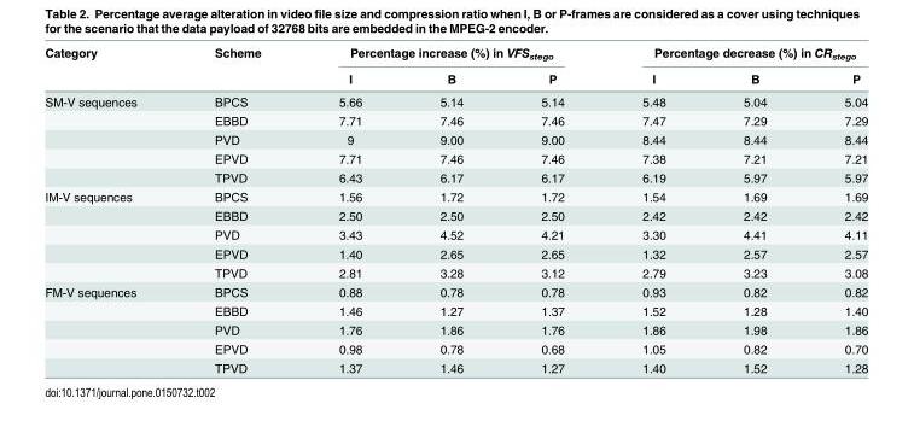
<table><thead><tr><td rowspan="2">Category</td><td rowspan="2">Scheme</td><td colspan="3">Percentage increase (%) in VFS<sub>stego</sub></td><td colspan="3">Percentage decrease (%) in CR<sub>stego</sub></td></tr><tr><td>I</td><td>B</td><td>P</td><td>I</td><td>B</td><td>P</td></tr></thead><tbody><tr><td rowspan="5">SM-V sequences</td><td>BPCS</td><td>5.66</td><td>5.14</td><td>5.14</td><td>5.48</td><td>5.04</td><td>5.04</td></tr><tr><td>EBBD</td><td>7.71</td><td>7.46</td><td>7.46</td><td>7.47</td><td>7.29</td><td>7.29</td></tr><tr><td>PVD</td><td>9</td><td>9.00</td><td>9.00</td><td>8.44</td><td>8.44</td><td>8.44</td></tr><tr><td>EPVD</td><td>7.71</td><td>7.46</td><td>7.46</td><td>7.38</td><td>7.21</td><td>7.21</td></tr><tr><td>TPVD</td><td>6.43</td><td>6.17</td><td>6.17</td><td>6.19</td><td>5.97</td><td>5.97</td></tr><tr><td rowspan="5">IM-V sequences</td><td>BPCS</td><td>1.56</td><td>1.72</td><td>1.72</td><td>1.54</td><td>1.69</td><td>1.69</td></tr><tr><td>EBBD</td><td>2.50</td><td>2.50</td><td>2.50</td><td>2.42</td><td>2.42</td><td>2.42</td></tr><tr><td>PVD</td><td>3.43</td><td>4.52</td><td>4.21</td><td>3.30</td><td>4.41</td><td>4.11</td></tr><tr><td>EPVD</td><td>1.40</td><td>2.65</td><td>2.65</td><td>1.32</td><td>2.57</td><td>2.57</td></tr><tr><td>TPVD</td><td>2.81</td><td>3.28</td><td>3.12</td><td>2.79</td><td>3.23</td><td>3.08</td></tr><tr><td rowspan="5">FM-V sequences</td><td>BPCS</td><td>0.88</td><td>0.78</td><td>0.78</td><td>0.93</td><td>0.82</td><td>0.82</td></tr><tr><td>EBBD</td><td>1.46</td><td>1.27</td><td>1.37</td><td>1.52</td><td>1.28</td><td>1.40</td></tr><tr><td>PVD</td><td>1.76</td><td>1.86</td><td>1.76</td><td>1.86</td><td>1.98</td><td>1.86</td></tr><tr><td>EPVD</td><td>0.98</td><td>0.78</td><td>0.68</td><td>1.05</td><td>0.82</td><td>0.70</td></tr><tr><td>TPVD</td><td>1.37</td><td>1.46</td><td>1.27</td><td>1.40</td><td>1.52</td><td>1.28</td></tr></tbody></table>